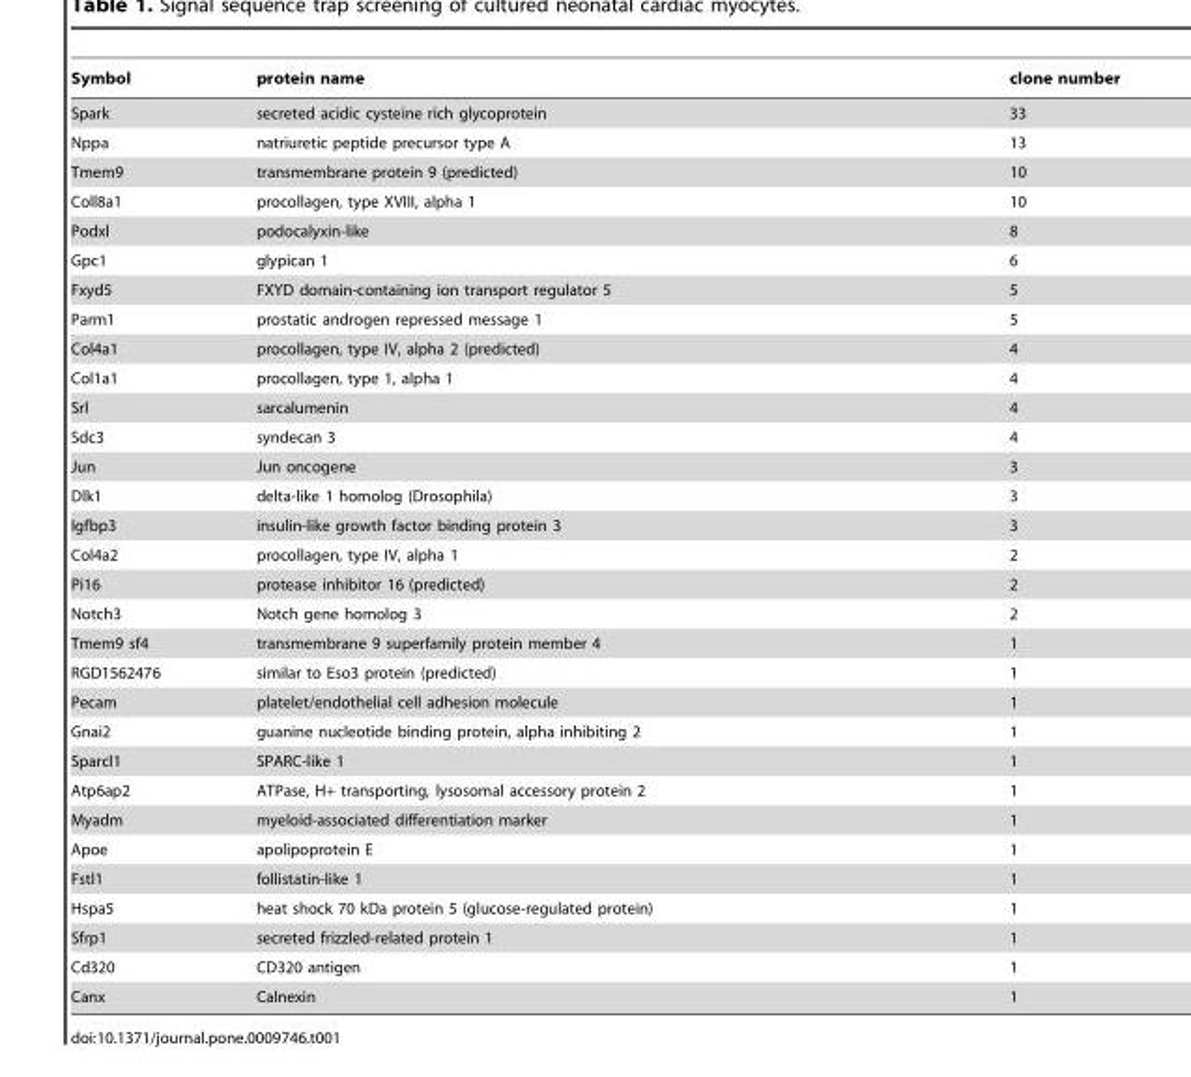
<table><thead><tr><td>Symbol</td><td>protein name</td><td>clone number</td></tr></thead><tbody><tr><td>Spark</td><td>secreted acidic cysteine rich glycoprotein</td><td>33</td></tr><tr><td>Nppa</td><td>natriuretic peptide precursor type A</td><td>13</td></tr><tr><td>Tmem9</td><td>transmembrane protein 9 (predicted)</td><td>10</td></tr><tr><td>Coll8a1</td><td>procollagen, type XVIII, alpha 1</td><td>10</td></tr><tr><td>Podxl</td><td>podocalyxin-like</td><td>8</td></tr><tr><td>Gpc1</td><td>glypican 1</td><td>6</td></tr><tr><td>Fxyd5</td><td>FXYD domain-containing ion transport regulator 5</td><td>5</td></tr><tr><td>Parm1</td><td>prostatic androgen repressed message 1</td><td>5</td></tr><tr><td>Col4a1</td><td>procollagen, type IV, alpha 2 (predicted)</td><td>4</td></tr><tr><td>Col1a1</td><td>procollagen, type 1, alpha 1</td><td>4</td></tr><tr><td>Srl</td><td>sarcalumenin</td><td>4</td></tr><tr><td>Sdc3</td><td>syndecan 3</td><td>4</td></tr><tr><td>Jun</td><td>Jun oncogene</td><td>3</td></tr><tr><td>Dlk1</td><td>delta-like 1 homolog (Drosophila)</td><td>3</td></tr><tr><td>Igfbp3</td><td>insulin-like growth factor binding protein 3</td><td>3</td></tr><tr><td>Col4a2</td><td>procollagen, type IV, alpha 1</td><td>2</td></tr><tr><td>Pi16</td><td>protease inhibitor 16 (predicted)</td><td>2</td></tr><tr><td>Notch3</td><td>Notch gene homolog 3</td><td>2</td></tr><tr><td>Tmem9 sf4</td><td>transmembrane 9 superfamily protein member 4</td><td>1</td></tr><tr><td>RGD1562476</td><td>similar to Eso3 protein (predicted)</td><td>1</td></tr><tr><td>Pecam</td><td>platelet/endothelial cell adhesion molecule</td><td>1</td></tr><tr><td>Gnai2</td><td>guanine nucleotide binding protein, alpha inhibiting 2</td><td>1</td></tr><tr><td>Sparcl1</td><td>SPARC-like 1</td><td>1</td></tr><tr><td>Atp6ap2</td><td>ATPase, H+ transporting, lysosomal accessory protein 2</td><td>1</td></tr><tr><td>Myadm</td><td>myeloid-associated differentiation marker</td><td>1</td></tr><tr><td>Apoe</td><td>apolipoprotein E</td><td>1</td></tr><tr><td>Fstl1</td><td>follistatin-like 1</td><td>1</td></tr><tr><td>Hspa5</td><td>heat shock 70 kDa protein 5 (glucose-regulated protein)</td><td>1</td></tr><tr><td>Sfrp1</td><td>secreted frizzled-related protein 1</td><td>1</td></tr><tr><td>Cd320</td><td>CD320 antigen</td><td>1</td></tr><tr><td>Canx</td><td>Calnexin</td><td>1</td></tr></tbody></table>